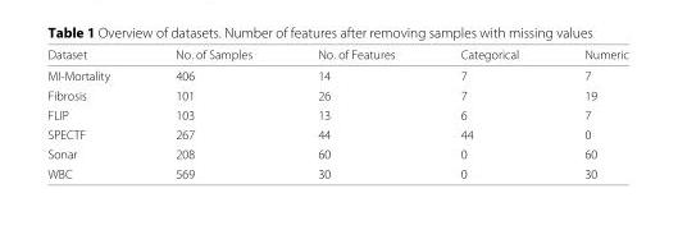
<table><thead><tr><td>Dataset</td><td>No. of Samples</td><td>No. of Features</td><td>Categorical</td><td>Numeric</td></tr></thead><tbody><tr><td>MI-Mortality</td><td>406</td><td>14</td><td>7</td><td>7</td></tr><tr><td>Fibrosis</td><td>101</td><td>26</td><td>7</td><td>19</td></tr><tr><td>FLIP</td><td>103</td><td>13</td><td>6</td><td>7</td></tr><tr><td>SPECTF</td><td>267</td><td>44</td><td>44</td><td>0</td></tr><tr><td>Sonar</td><td>208</td><td>60</td><td>0</td><td>60</td></tr><tr><td>WBC</td><td>569</td><td>30</td><td>0</td><td>30</td></tr></tbody></table>